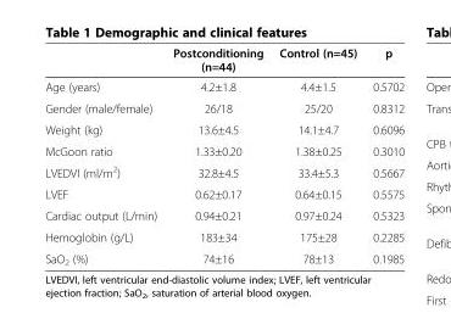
<table><thead><tr><td></td><td>Postconditioning (n=44)</td><td>Control (n=45)</td><td>p</td></tr></thead><tbody><tr><td>Age (years)</td><td>4.2±1.8</td><td>4.4±1.5</td><td>0.5702</td></tr><tr><td>Gender (male/female)</td><td>26/18</td><td>25/20</td><td>0.8312</td></tr><tr><td>Weight (kg)</td><td>13.6±4.5</td><td>14.1±4.7</td><td>0.6096</td></tr><tr><td>McGoon ratio</td><td>1.33±0.20</td><td>1.38±0.25</td><td>0.3010</td></tr><tr><td>LVEDVI (ml/m<sup>2</sup>)</td><td>32.8±4.5</td><td>33.4±5.3</td><td>0.5667</td></tr><tr><td>LVEF</td><td>0.62±0.17</td><td>0.64±0.15</td><td>0.5575</td></tr><tr><td>Cardiac output (L/min)</td><td>0.94±0.21</td><td>0.97±0.24</td><td>0.5323</td></tr><tr><td>Hemoglobin (g/L)</td><td>183±34</td><td>175±28</td><td>0.2285</td></tr><tr><td>SaO<sub>2</sub> (%)</td><td>74±16</td><td>78±13</td><td>0.1985</td></tr></tbody></table>